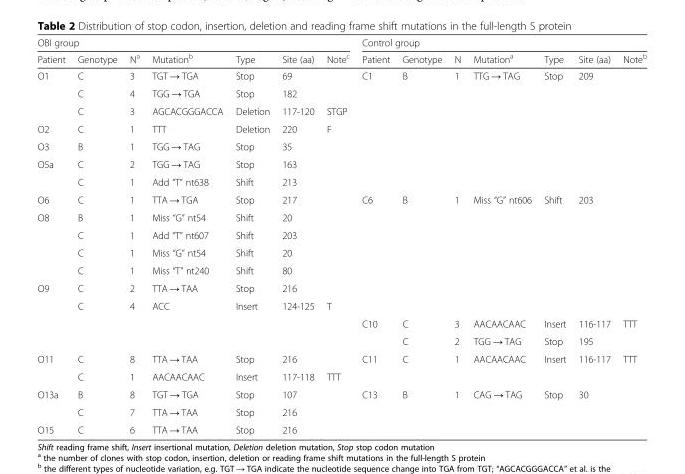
<table><thead><tr><td colspan="7">OBI group</td><td colspan="7">Control group</td></tr><tr><td>Patient</td><td>Genotype</td><td>N<sup>a</sup></td><td>Mutation<sup>b</sup></td><td>Type</td><td>Site (aa)</td><td>Note<sup>c</sup></td><td>Patient</td><td>Genotype</td><td>N</td><td>Mutation<sup>a</sup></td><td>Type</td><td>Site (aa)</td><td>Note<sup>b</sup></td></tr></thead><tbody><tr><td rowspan="3">O1</td><td>C</td><td>3</td><td>TGT → TGA</td><td>Stop</td><td>69</td><td></td><td>C1</td><td>B</td><td>1</td><td>TTG → TAG</td><td>Stop</td><td>209</td><td></td></tr><tr><td>C</td><td>4</td><td>TGG → TGA</td><td>Stop</td><td>182</td><td></td><td></td><td></td><td></td><td></td><td></td><td></td><td></td></tr><tr><td>C</td><td>3</td><td>AGCACGGGACCA</td><td>Deletion</td><td>117-120</td><td>STGP</td><td></td><td></td><td></td><td></td><td></td><td></td><td></td></tr><tr><td>O2</td><td>C</td><td>1</td><td>TTT</td><td>Deletion</td><td>220</td><td>F</td><td></td><td></td><td></td><td></td><td></td><td></td><td></td></tr><tr><td>O3</td><td>B</td><td>1</td><td>TGG → TAG</td><td>Stop</td><td>35</td><td></td><td></td><td></td><td></td><td></td><td></td><td></td><td></td></tr><tr><td rowspan="2">O5a</td><td>C</td><td>2</td><td>TGG → TAG</td><td>Stop</td><td>163</td><td></td><td></td><td></td><td></td><td></td><td></td><td></td><td></td></tr><tr><td>C</td><td>1</td><td>Add “T” nt638</td><td>Shift</td><td>213</td><td></td><td></td><td></td><td></td><td></td><td></td><td></td><td></td></tr><tr><td>O6</td><td>C</td><td>1</td><td>TTA → TGA</td><td>Stop</td><td>217</td><td></td><td>C6</td><td>B</td><td>1</td><td>Miss “G” nt606</td><td>Shift</td><td>203</td><td></td></tr><tr><td rowspan="4">O8</td><td>B</td><td>1</td><td>Miss “G” nt54</td><td>Shift</td><td>20</td><td></td><td></td><td></td><td></td><td></td><td></td><td></td><td></td></tr><tr><td>C</td><td>1</td><td>Add “T” nt607</td><td>Shift</td><td>203</td><td></td><td></td><td></td><td></td><td></td><td></td><td></td><td></td></tr><tr><td>C</td><td>1</td><td>Miss “G” nt54</td><td>Shift</td><td>20</td><td></td><td></td><td></td><td></td><td></td><td></td><td></td><td></td></tr><tr><td>C</td><td>1</td><td>Miss “T” nt240</td><td>Shift</td><td>80</td><td></td><td></td><td></td><td></td><td></td><td></td><td></td><td></td></tr><tr><td rowspan="4">O9</td><td>C</td><td>2</td><td>TTA → TAA</td><td>Stop</td><td>216</td><td></td><td></td><td></td><td></td><td></td><td></td><td></td><td></td></tr><tr><td>C</td><td>4</td><td>ACC</td><td>Insert</td><td>124-125</td><td>T</td><td></td><td></td><td></td><td></td><td></td><td></td><td></td></tr><tr><td></td><td></td><td></td><td></td><td></td><td></td><td>C10</td><td>C</td><td>3</td><td>AACAACAAC</td><td>Insert</td><td>116-117</td><td>TTT</td></tr><tr><td></td><td></td><td></td><td></td><td></td><td></td><td></td><td>C</td><td>2</td><td>TGG → TAG</td><td>Stop</td><td>195</td><td></td></tr><tr><td rowspan="2">O11</td><td>C</td><td>8</td><td>TTA → TAA</td><td>Stop</td><td>216</td><td></td><td>C11</td><td>C</td><td>1</td><td>AACAACAAC</td><td>Insert</td><td>116-117</td><td>TTT</td></tr><tr><td>C</td><td>1</td><td>AACAACAAC</td><td>Insert</td><td>117-118</td><td>TTT</td><td></td><td></td><td></td><td></td><td></td><td></td><td></td></tr><tr><td rowspan="2">O13a</td><td>B</td><td>8</td><td>TGT → TGA</td><td>Stop</td><td>107</td><td></td><td>C13</td><td>B</td><td>1</td><td>CAG → TAG</td><td>Stop</td><td>30</td><td></td></tr><tr><td>C</td><td>7</td><td>TTA → TAA</td><td>Stop</td><td>216</td><td></td><td></td><td></td><td></td><td></td><td></td><td></td><td></td></tr><tr><td>O15</td><td>C</td><td>6</td><td>TTA → TAA</td><td>Stop</td><td>216</td><td></td><td></td><td></td><td></td><td></td><td></td><td></td><td></td></tr></tbody></table>